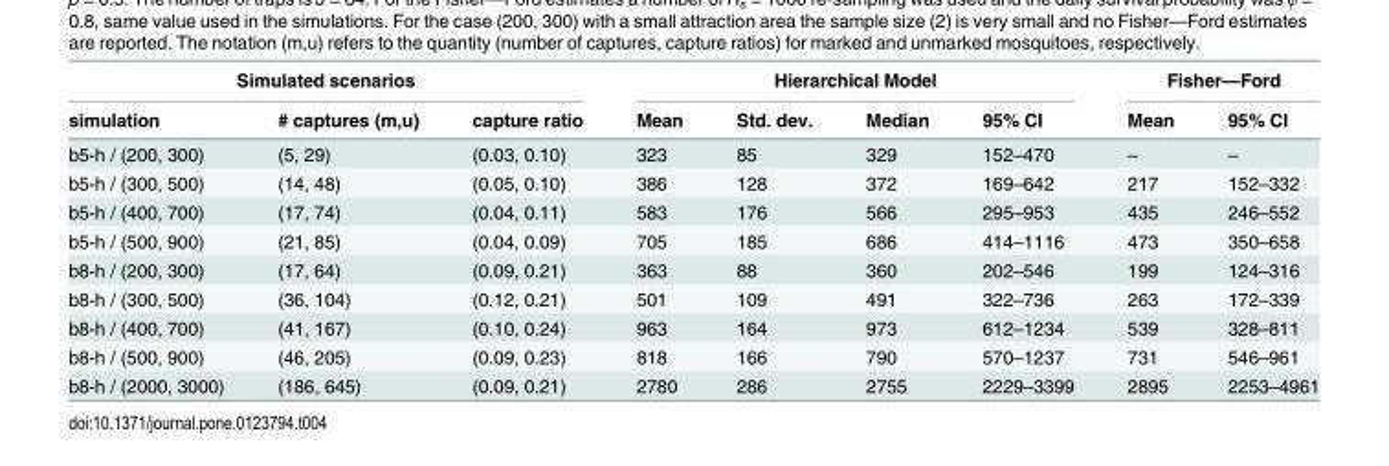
<table><thead><tr><td colspan="3">Simulated scenarios</td><td colspan="4">Hierarchical Model</td><td colspan="2">Fisher—Ford</td></tr><tr><td>simulation</td><td># captures (m,u)</td><td>capture ratio</td><td>Mean</td><td>Std. dev.</td><td>Median</td><td>95% CI</td><td>Mean</td><td>95% CI</td></tr></thead><tbody><tr><td>b5-h / (200, 300)</td><td>(5, 29)</td><td>(0.03, 0.10)</td><td>323</td><td>85</td><td>329</td><td>152–470</td><td>–</td><td>–</td></tr><tr><td>b5-h / (300, 500)</td><td>(14, 48)</td><td>(0.05, 0.10)</td><td>386</td><td>128</td><td>372</td><td>169–642</td><td>217</td><td>152–332</td></tr><tr><td>b5-h / (400, 700)</td><td>(17, 74)</td><td>(0.04, 0.11)</td><td>583</td><td>176</td><td>566</td><td>295–953</td><td>435</td><td>246–552</td></tr><tr><td>b5-h / (500, 900)</td><td>(21, 85)</td><td>(0.04, 0.09)</td><td>705</td><td>185</td><td>686</td><td>414–1116</td><td>473</td><td>350–658</td></tr><tr><td>b8-h / (200, 300)</td><td>(17, 64)</td><td>(0.09, 0.21)</td><td>363</td><td>88</td><td>360</td><td>202–546</td><td>199</td><td>124–316</td></tr><tr><td>b8-h / (300, 500)</td><td>(36, 104)</td><td>(0.12, 0.21)</td><td>501</td><td>109</td><td>491</td><td>322–736</td><td>263</td><td>172–339</td></tr><tr><td>b8-h / (400, 700)</td><td>(41, 167)</td><td>(0.10, 0.24)</td><td>963</td><td>164</td><td>973</td><td>612–1234</td><td>539</td><td>328–811</td></tr><tr><td>b8-h / (500, 900)</td><td>(46, 205)</td><td>(0.09, 0.23)</td><td>818</td><td>166</td><td>790</td><td>570–1237</td><td>731</td><td>546–961</td></tr><tr><td>b8-h / (2000, 3000)</td><td>(186, 645)</td><td>(0.09, 0.21)</td><td>2780</td><td>286</td><td>2755</td><td>2229–3399</td><td>2895</td><td>2253–4961</td></tr></tbody></table>